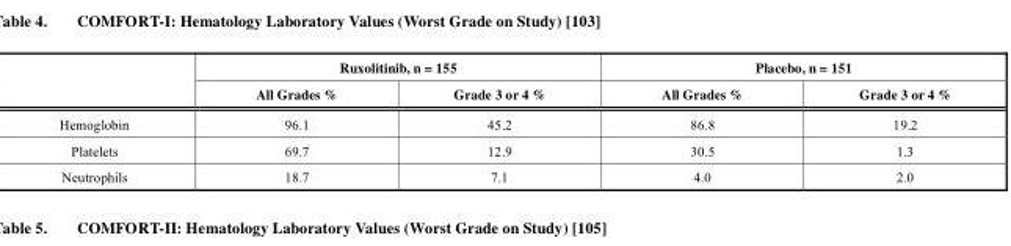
<table><thead><tr><td rowspan="2"></td><td colspan="2">Ruxolitinib, n = 155</td><td colspan="2">Placebo, n = 151</td></tr><tr><td>All Grades %</td><td>Grade 3 or 4 %</td><td>All Grades %</td><td>Grade 3 or 4 %</td></tr></thead><tbody><tr><td>Hemoglobin</td><td>96.1</td><td>45.2</td><td>86.8</td><td>19.2</td></tr><tr><td>Platelets</td><td>69.7</td><td>12.9</td><td>30.5</td><td>1.3</td></tr><tr><td>Neutrophils</td><td>18.7</td><td>7.1</td><td>4.0</td><td>2.0</td></tr></tbody></table>